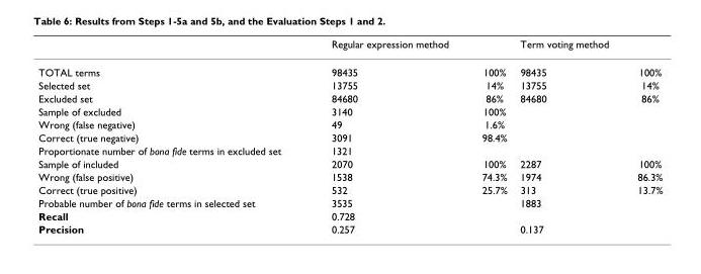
<table><thead><tr><td></td><td>Regular expression method</td><td></td><td>Term voting method</td><td></td></tr></thead><tbody><tr><td>TOTAL terms</td><td>98435</td><td>100%</td><td>98435</td><td>100%</td></tr><tr><td>Selected set</td><td>13755</td><td>14%</td><td>13755</td><td>14%</td></tr><tr><td>Excluded set</td><td>84680</td><td>86%</td><td>84680</td><td>86%</td></tr><tr><td>Sample of excluded</td><td>3140</td><td>100%</td><td></td><td></td></tr><tr><td>Wrong (false negative)</td><td>49</td><td>1.6%</td><td></td><td></td></tr><tr><td>Correct (true negative)</td><td>3091</td><td>98.4%</td><td></td><td></td></tr><tr><td>Proportionate number of bona fide terms in excluded set</td><td>1321</td><td></td><td></td><td></td></tr><tr><td>Sample of included</td><td>2070</td><td>100%</td><td>2287</td><td>100%</td></tr><tr><td>Wrong (false positive)</td><td>1538</td><td>74.3%</td><td>1974</td><td>86.3%</td></tr><tr><td>Correct (true positive)</td><td>532</td><td>25.7%</td><td>313</td><td>13.7%</td></tr><tr><td>Probable number of bona fide terms in selected set</td><td>3535</td><td></td><td>1883</td><td></td></tr><tr><td>Recall</td><td>0.728</td><td></td><td></td><td></td></tr><tr><td>Precision</td><td>0.257</td><td></td><td>0.137</td><td></td></tr></tbody></table>